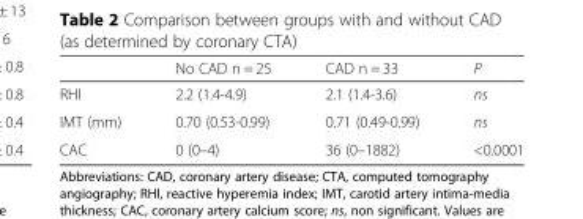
<table><thead><tr><td></td><td>No CAD n = 25</td><td>CAD n = 33</td><td>P</td></tr></thead><tbody><tr><td>RHI</td><td>2.2 (1.4-4.9)</td><td>2.1 (1.4-3.6)</td><td>ns</td></tr><tr><td>IMT (mm)</td><td>0.70 (0.53-0.99)</td><td>0.71 (0.49-0.99)</td><td>ns</td></tr><tr><td>CAC</td><td>0 (0–4)</td><td>36 (0–1882)</td><td>&lt;0.0001</td></tr></tbody></table>